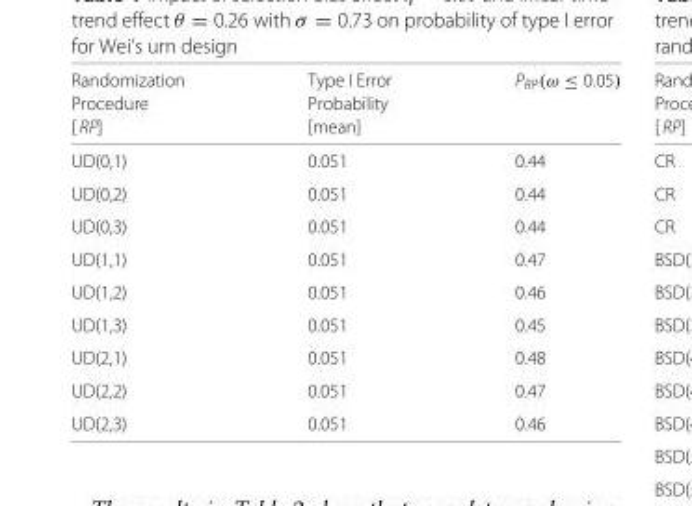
<table><thead><tr><td rowspan="3">Randomization Procedure [ RP]</td><td rowspan="3">Type I Error Probability [mean]</td><td rowspan="3">P<sub>RP</sub>(ω ≤ 0.05)</td></tr><tr></tr><tr></tr></thead><tbody><tr><td>UD(0,1)</td><td>0.051</td><td>0.44</td></tr><tr><td>UD(0,2)</td><td>0.051</td><td>0.44</td></tr><tr><td>UD(0,3)</td><td>0.051</td><td>0.44</td></tr><tr><td>UD(1,1)</td><td>0.051</td><td>0.47</td></tr><tr><td>UD(1,2)</td><td>0.051</td><td>0.46</td></tr><tr><td>UD(1,3)</td><td>0.051</td><td>0.45</td></tr><tr><td>UD(2,1)</td><td>0.051</td><td>0.48</td></tr><tr><td>UD(2,2)</td><td>0.051</td><td>0.47</td></tr><tr><td>UD(2,3)</td><td>0.051</td><td>0.46</td></tr></tbody></table>